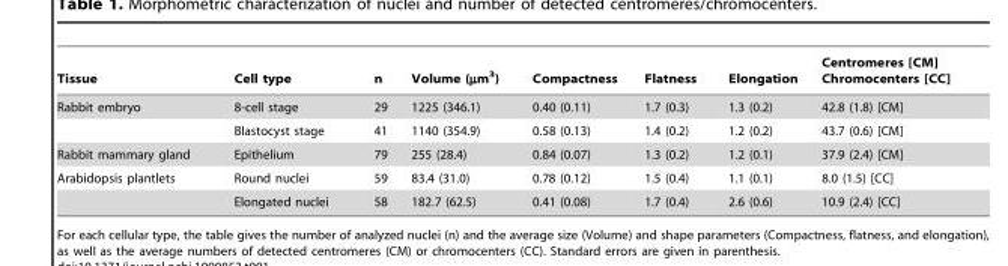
<table><thead><tr><td>Tissue</td><td>Cell type</td><td>n</td><td>Volume (µm<sup>3</sup>)</td><td>Compactness</td><td>Flatness</td><td>Elongation</td><td>Centromeres [CM] Chromocenters [CC]</td></tr></thead><tbody><tr><td rowspan="2">Rabbit embryo</td><td>8-cell stage</td><td>29</td><td>1225 (346.1)</td><td>0.40 (0.11)</td><td>1.7 (0.3)</td><td>1.3 (0.2)</td><td>42.8 (1.8) [CM]</td></tr><tr><td>Blastocyst stage</td><td>41</td><td>1140 (354.9)</td><td>0.58 (0.13)</td><td>1.4 (0.2)</td><td>1.2 (0.2)</td><td>43.7 (0.6) [CM]</td></tr><tr><td>Rabbit mammary gland</td><td>Epithelium</td><td>79</td><td>255 (28.4)</td><td>0.84 (0.07)</td><td>1.3 (0.2)</td><td>1.2 (0.1)</td><td>37.9 (2.4) [CM]</td></tr><tr><td rowspan="2">Arabidopsis plantlets</td><td>Round nuclei</td><td>59</td><td>83.4 (31.0)</td><td>0.78 (0.12)</td><td>1.5 (0.4)</td><td>1.1 (0.1)</td><td>8.0 (1.5) [CC]</td></tr><tr><td>Elongated nuclei</td><td>58</td><td>182.7 (62.5)</td><td>0.41 (0.08)</td><td>1.7 (0.4)</td><td>2.6 (0.6)</td><td>10.9 (2.4) [CC]</td></tr></tbody></table>